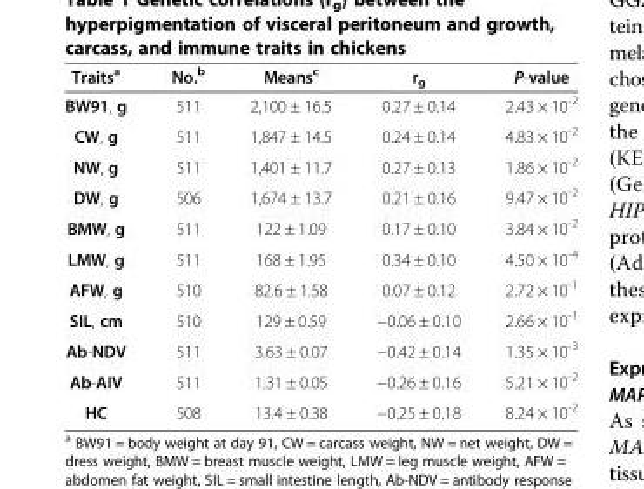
<table><thead><tr><td>Traits<sup>a</sup></td><td>No.<sup>b</sup></td><td>Means<sup>c</sup></td><td>r<sub>g</sub></td><td>P-value</td></tr></thead><tbody><tr><td>BW91, g</td><td>511</td><td>2,100 ± 16.5</td><td>0.27 ± 0.14</td><td>2.43 × 10<sup>-2</sup></td></tr><tr><td>CW, g</td><td>511</td><td>1,847 ± 14.5</td><td>0.24 ± 0.14</td><td>4.83 × 10<sup>-2</sup></td></tr><tr><td>NW, g</td><td>511</td><td>1,401 ± 11.7</td><td>0.27 ± 0.13</td><td>1.86 × 10<sup>-2</sup></td></tr><tr><td>DW, g</td><td>506</td><td>1,674 ± 13.7</td><td>0.21 ± 0.16</td><td>9.47 × 10<sup>-2</sup></td></tr><tr><td>BMW, g</td><td>511</td><td>122 ± 1.09</td><td>0.17 ± 0.10</td><td>3.84 × 10<sup>-2</sup></td></tr><tr><td>LMW, g</td><td>511</td><td>168 ± 1.95</td><td>0.34 ± 0.10</td><td>4.50 × 10<sup>-4</sup></td></tr><tr><td>AFW, g</td><td>510</td><td>82.6 ± 1.58</td><td>0.07 ± 0.12</td><td>2.72 × 10<sup>-1</sup></td></tr><tr><td>SIL, cm</td><td>510</td><td>129 ± 0.59</td><td>−0.06 ± 0.10</td><td>2.66 × 10<sup>-1</sup></td></tr><tr><td>Ab-NDV</td><td>511</td><td>3.63 ± 0.07</td><td>−0.42 ± 0.14</td><td>1.35 × 10<sup>-3</sup></td></tr><tr><td>Ab-AIV</td><td>511</td><td>1.31 ± 0.05</td><td>−0.26 ± 0.16</td><td>5.21 × 10<sup>-2</sup></td></tr><tr><td>HC</td><td>508</td><td>13.4 ± 0.38</td><td>−0.25 ± 0.18</td><td>8.24 × 10<sup>-2</sup></td></tr></tbody></table>